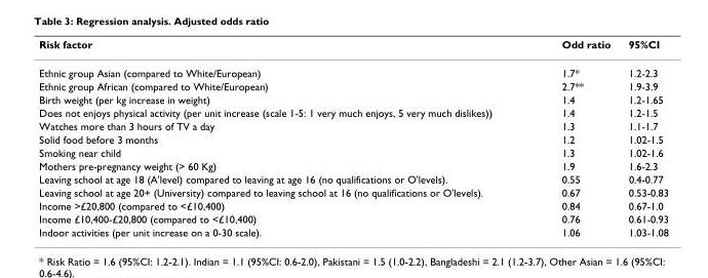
<table><thead><tr><td>Risk factor</td><td>Odd ratio</td><td>95%CI</td></tr></thead><tbody><tr><td>Ethnic group Asian (compared to White/European)</td><td>1.7*</td><td>1.2-2.3</td></tr><tr><td>Ethnic group African (compared to White/European)</td><td>2.7**</td><td>1.9-3.9</td></tr><tr><td>Birth weight (per kg increase in weight)</td><td>1.4</td><td>1.2-1.65</td></tr><tr><td>Does not enjoys physical activity (per unit increase (scale 1-5: 1 very much enjoys, 5 very much dislikes))</td><td>1.4</td><td>1.2-1.5</td></tr><tr><td>Watches more than 3 hours of TV a day</td><td>1.3</td><td>1.1-1.7</td></tr><tr><td>Solid food before 3 months</td><td>1.2</td><td>1.02-1.5</td></tr><tr><td>Smoking near child</td><td>1.3</td><td>1.02-1.6</td></tr><tr><td>Mothers pre-pregnancy weight (&gt; 60 Kg)</td><td>1.9</td><td>1.6-2.3</td></tr><tr><td>Leaving school at age 18 (A&#x27;level) compared to leaving at age 16 (no qualifications or O&#x27;levels).</td><td>0.55</td><td>0.4-0.77</td></tr><tr><td>Leaving school at age 20+ (University) compared to leaving school at 16 (no qualifications or O&#x27;levels).</td><td>0.67</td><td>0.53-0.83</td></tr><tr><td>Income &gt;£20,800 (compared to &lt;£10,400)</td><td>0.84</td><td>0.67-1.0</td></tr><tr><td>Income £10,400-£20,800 (compared to &lt;£10,400)</td><td>0.76</td><td>0.61-0.93</td></tr><tr><td>Indoor activities (per unit increase on a 0-30 scale).</td><td>1.06</td><td>1.03-1.08</td></tr></tbody></table>